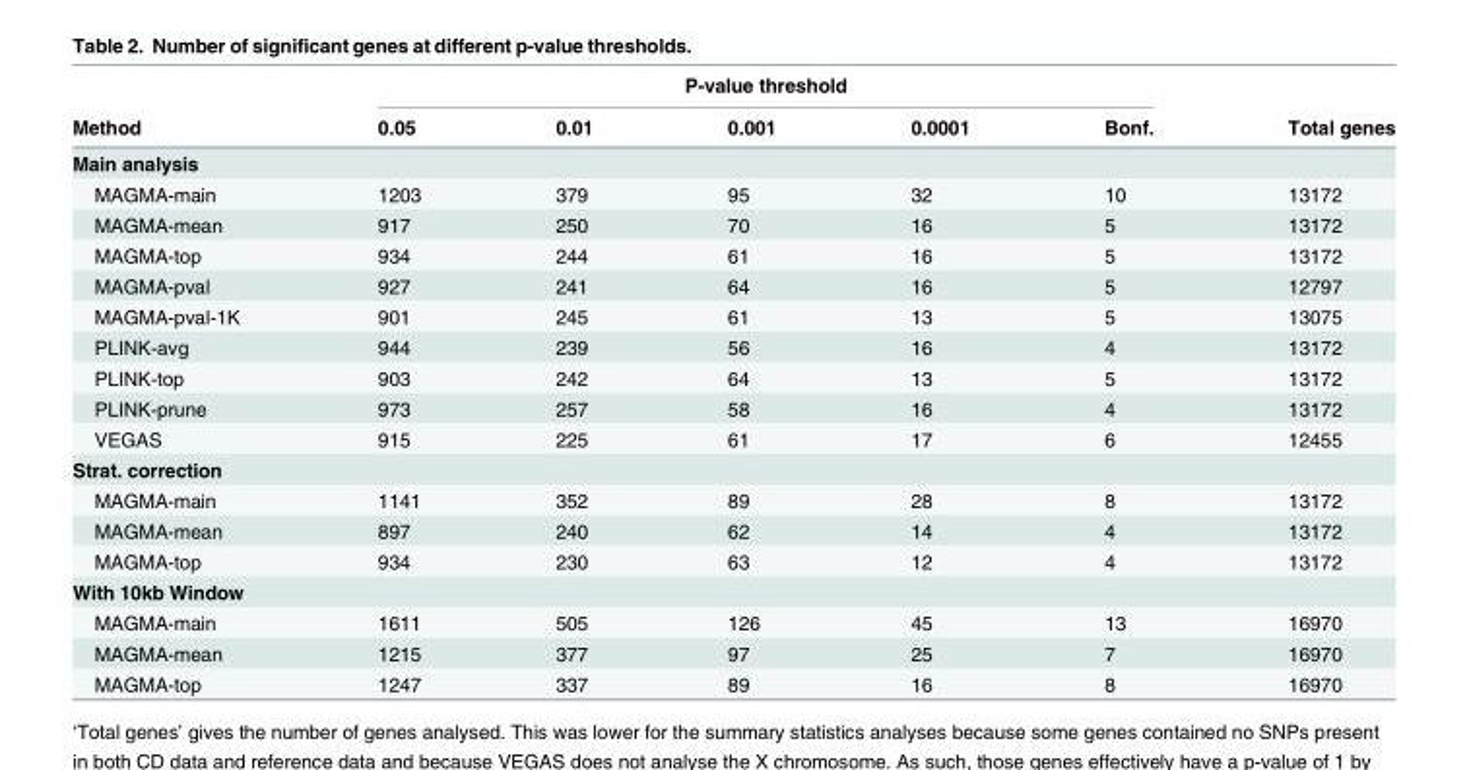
<table><thead><tr><td rowspan="2">Method</td><td colspan="5">P-value threshold</td><td rowspan="2">Total genes</td></tr><tr><td>0.05</td><td>0.01</td><td>0.001</td><td>0.0001</td><td>Bonf.</td></tr></thead><tbody><tr><td colspan="7">Main analysis</td></tr><tr><td>MAGMA-main</td><td>1203</td><td>379</td><td>95</td><td>32</td><td>10</td><td>13172</td></tr><tr><td>MAGMA-mean</td><td>917</td><td>250</td><td>70</td><td>16</td><td>5</td><td>13172</td></tr><tr><td>MAGMA-top</td><td>934</td><td>244</td><td>61</td><td>16</td><td>5</td><td>13172</td></tr><tr><td>MAGMA-pval</td><td>927</td><td>241</td><td>64</td><td>16</td><td>5</td><td>12797</td></tr><tr><td>MAGMA-pval-1K</td><td>901</td><td>245</td><td>61</td><td>13</td><td>5</td><td>13075</td></tr><tr><td>PLINK-avg</td><td>944</td><td>239</td><td>56</td><td>16</td><td>4</td><td>13172</td></tr><tr><td>PLINK-top</td><td>903</td><td>242</td><td>64</td><td>13</td><td>5</td><td>13172</td></tr><tr><td>PLINK-prune</td><td>973</td><td>257</td><td>58</td><td>16</td><td>4</td><td>13172</td></tr><tr><td>VEGAS</td><td>915</td><td>225</td><td>61</td><td>17</td><td>6</td><td>12455</td></tr><tr><td colspan="7">Strat. correction</td></tr><tr><td>MAGMA-main</td><td>1141</td><td>352</td><td>89</td><td>28</td><td>8</td><td>13172</td></tr><tr><td>MAGMA-mean</td><td>897</td><td>240</td><td>62</td><td>14</td><td>4</td><td>13172</td></tr><tr><td>MAGMA-top</td><td>934</td><td>230</td><td>63</td><td>12</td><td>4</td><td>13172</td></tr><tr><td colspan="7">With 10kb Window</td></tr><tr><td>MAGMA-main</td><td>1611</td><td>505</td><td>126</td><td>45</td><td>13</td><td>16970</td></tr><tr><td>MAGMA-mean</td><td>1215</td><td>377</td><td>97</td><td>25</td><td>7</td><td>16970</td></tr><tr><td>MAGMA-top</td><td>1247</td><td>337</td><td>89</td><td>16</td><td>8</td><td>16970</td></tr></tbody></table>